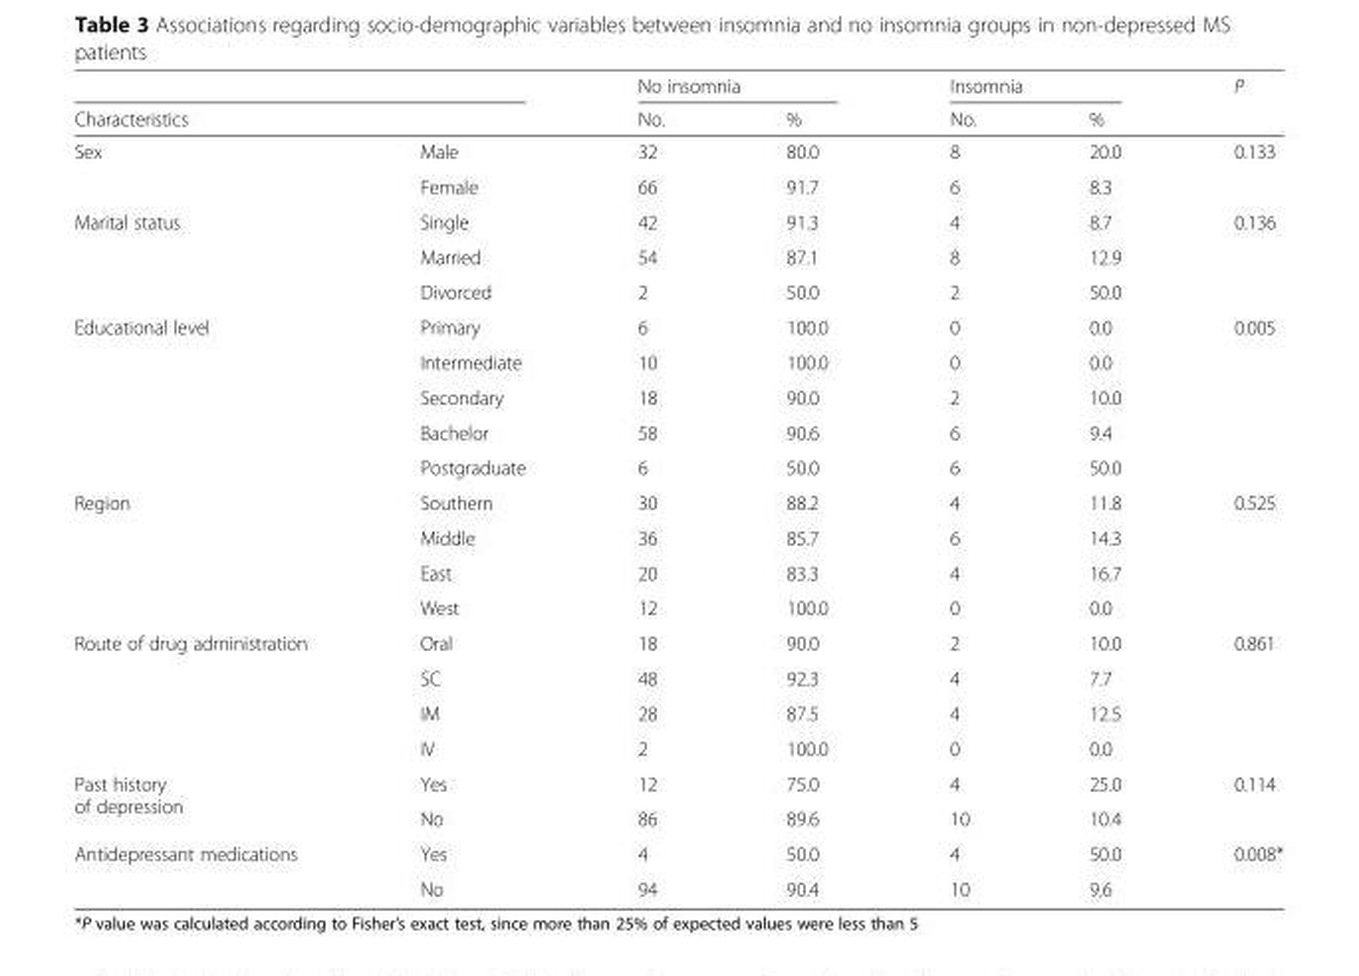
<table><thead><tr><td></td><td></td><td colspan="2">No insomnia</td><td colspan="2">Insomnia</td><td rowspan="2">P</td></tr><tr><td colspan="2">Characteristics</td><td>No.</td><td>%</td><td>No.</td><td>%</td></tr></thead><tbody><tr><td rowspan="2">Sex</td><td>Male</td><td>32</td><td>80.0</td><td>8</td><td>20.0</td><td rowspan="2">0.133</td></tr><tr><td>Female</td><td>66</td><td>91.7</td><td>6</td><td>8.3</td></tr><tr><td rowspan="3">Marital status</td><td>Single</td><td>42</td><td>91.3</td><td>4</td><td>8.7</td><td rowspan="3">0.136</td></tr><tr><td>Married</td><td>54</td><td>87.1</td><td>8</td><td>12.9</td></tr><tr><td>Divorced</td><td>2</td><td>50.0</td><td>2</td><td>50.0</td></tr><tr><td rowspan="5">Educational level</td><td>Primary</td><td>6</td><td>100.0</td><td>0</td><td>0.0</td><td rowspan="5">0.005</td></tr><tr><td>Intermediate</td><td>10</td><td>100.0</td><td>0</td><td>0.0</td></tr><tr><td>Secondary</td><td>18</td><td>90.0</td><td>2</td><td>10.0</td></tr><tr><td>Bachelor</td><td>58</td><td>90.6</td><td>6</td><td>9.4</td></tr><tr><td>Postgraduate</td><td>6</td><td>50.0</td><td>6</td><td>50.0</td></tr><tr><td rowspan="4">Region</td><td>Southern</td><td>30</td><td>88.2</td><td>4</td><td>11.8</td><td rowspan="4">0.525</td></tr><tr><td>Middle</td><td>36</td><td>85.7</td><td>6</td><td>14.3</td></tr><tr><td>East</td><td>20</td><td>83.3</td><td>4</td><td>16.7</td></tr><tr><td>West</td><td>12</td><td>100.0</td><td>0</td><td>0.0</td></tr><tr><td rowspan="4">Route of drug administration</td><td>Oral</td><td>18</td><td>90.0</td><td>2</td><td>10.0</td><td rowspan="4">0.861</td></tr><tr><td>SC</td><td>48</td><td>92.3</td><td>4</td><td>7.7</td></tr><tr><td>IM</td><td>28</td><td>87.5</td><td>4</td><td>12.5</td></tr><tr><td>IV</td><td>2</td><td>100.0</td><td>0</td><td>0.0</td></tr><tr><td rowspan="2">Past history of depression</td><td>Yes</td><td>12</td><td>75.0</td><td>4</td><td>25.0</td><td rowspan="2">0.114</td></tr><tr><td>No</td><td>86</td><td>89.6</td><td>10</td><td>10.4</td></tr><tr><td rowspan="2">Antidepressant medications</td><td>Yes</td><td>4</td><td>50.0</td><td>4</td><td>50.0</td><td rowspan="2">0.008*</td></tr><tr><td>No</td><td>94</td><td>90.4</td><td>10</td><td>9.6</td></tr></tbody></table>